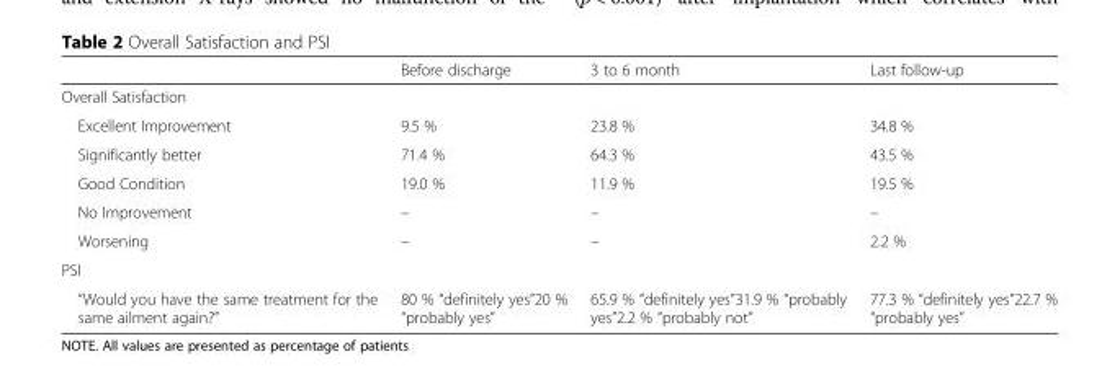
<table><thead><tr><td></td><td>Before discharge</td><td>3 to 6 month</td><td>Last follow-up</td></tr></thead><tbody><tr><td colspan="4">Overall Satisfaction</td></tr><tr><td>Excellent Improvement</td><td>9.5 %</td><td>23.8 %</td><td>34.8 %</td></tr><tr><td>Significantly better</td><td>71.4 %</td><td>64.3 %</td><td>43.5 %</td></tr><tr><td>Good Condition</td><td>19.0 %</td><td>11.9 %</td><td>19.5 %</td></tr><tr><td>No Improvement</td><td>–</td><td>–</td><td>–</td></tr><tr><td>Worsening</td><td>–</td><td>–</td><td>2.2 %</td></tr><tr><td colspan="4">PSI</td></tr><tr><td>“Would you have the same treatment for the same ailment again?”</td><td>80 % “definitely yes”20 % “probably yes”</td><td>65.9 % “definitely yes”31.9 % “probably yes”2.2 % “probably not”</td><td>77.3 % “definitely yes”22.7 % “probably yes”</td></tr></tbody></table>